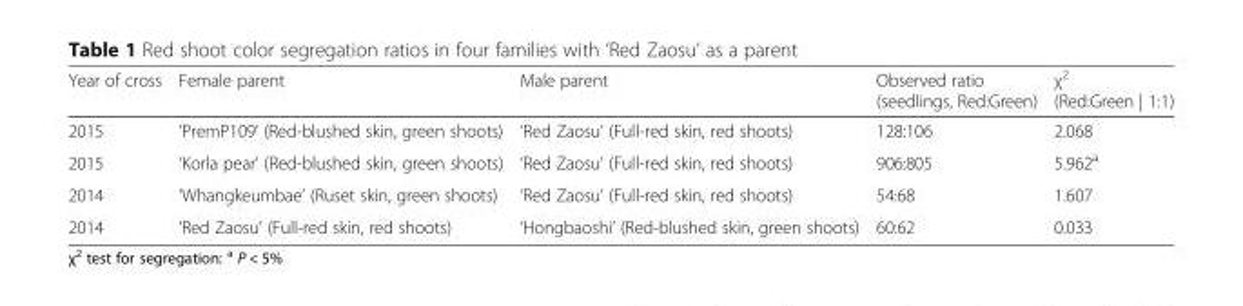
<table><thead><tr><td>Year of cross</td><td>Female parent</td><td>Male parent</td><td>Observed ratio (seedlings, Red:Green)</td><td>χ<sup>2</sup> (Red:Green | 1:1)</td></tr></thead><tbody><tr><td>2015</td><td>‘PremP109’ (Red-blushed skin, green shoots)</td><td>‘Red Zaosu’ (Full-red skin, red shoots)</td><td>128:106</td><td>2.068</td></tr><tr><td>2015</td><td>‘Korla pear’ (Red-blushed skin, green shoots)</td><td>‘Red Zaosu’ (Full-red skin, red shoots)</td><td>906:805</td><td>5.962<sup>a</sup></td></tr><tr><td>2014</td><td>‘Whangkeumbae’ (Ruset skin, green shoots)</td><td>‘Red Zaosu’ (Full-red skin, red shoots)</td><td>54:68</td><td>1.607</td></tr><tr><td>2014</td><td>‘Red Zaosu’ (Full-red skin, red shoots)</td><td>‘Hongbaoshi’ (Red-blushed skin, green shoots)</td><td>60:62</td><td>0.033</td></tr></tbody></table>